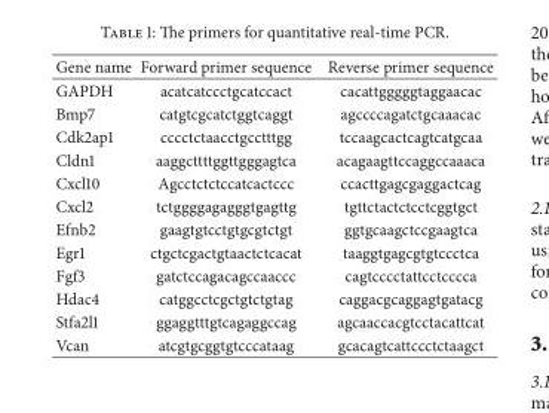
<table><thead><tr><td>Gene name</td><td>Forward primer sequence</td><td>Reverse primer sequence</td></tr></thead><tbody><tr><td>GAPDH</td><td>acatcatccctgcatccact</td><td>cacattgggggtaggaacac</td></tr><tr><td>Bmp7</td><td>catgtcgcatctggtcaggt</td><td>agccccagatctgcaaacac</td></tr><tr><td>Cdk2ap1</td><td>cccctctaacctgcctttgg</td><td>tccaagcactcagtcatgcaa</td></tr><tr><td>Cldn1</td><td>aaggcttttggttgggagtca</td><td>acagaagttccaggccaaaca</td></tr><tr><td>Cxcl10</td><td>Agcctctctccatcactccc</td><td>ccacttgagcgaggactcag</td></tr><tr><td>Cxcl2</td><td>tctggggagagggtgagttg</td><td>tgttctactctcctcggtgct</td></tr><tr><td>Efnb2</td><td>gaagtgtcctgtgcgtctgt</td><td>ggtgcaagctccgaagtca</td></tr><tr><td>Egr1</td><td>ctgctcgactgtaactctcacat</td><td>taaggtgagcgtgtccctca</td></tr><tr><td>Fgf3</td><td>gatctccagacagccaaccc</td><td>cagtcccctattcctcccca</td></tr><tr><td>Hdac4</td><td>catggcctcgctgtctgtag</td><td>caggacgcaggagtgatacg</td></tr><tr><td>Stfa2l1</td><td>ggaggtttgtcagaggccag</td><td>agcaaccacgtcctacattcat</td></tr><tr><td>Vcan</td><td>atcgtgcggtgtcccataag</td><td>gcacagtcattccctctaagct</td></tr></tbody></table>